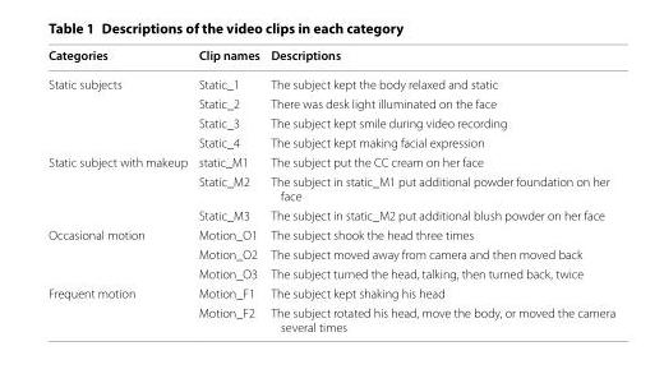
<table><thead><tr><td>Categories</td><td>Clip names</td><td>Descriptions</td></tr></thead><tbody><tr><td rowspan="4">Static subjects</td><td>Static_1</td><td>The subject kept the body relaxed and static</td></tr><tr><td>Static_2</td><td>There was desk light illuminated on the face</td></tr><tr><td>Static_3</td><td>The subject kept smile during video recording</td></tr><tr><td>Static_4</td><td>The subject kept making facial expression</td></tr><tr><td rowspan="3">Static subject with makeup</td><td>static_M1</td><td>The subject put the CC cream on her face</td></tr><tr><td>Static_M2</td><td>The subject in static_M1 put additional powder foundation on her face</td></tr><tr><td>Static_M3</td><td>The subject in static_M2 put additional blush powder on her face</td></tr><tr><td rowspan="3">Occasional motion</td><td>Motion_O1</td><td>The subject shook the head three times</td></tr><tr><td>Motion_O2</td><td>The subject moved away from camera and then moved back</td></tr><tr><td>Motion_O3</td><td>The subject turned the head, talking, then turned back, twice</td></tr><tr><td rowspan="2">Frequent motion</td><td>Motion_F1</td><td>The subject kept shaking his head</td></tr><tr><td>Motion_F2</td><td>The subject rotated his head, move the body, or moved the camera several times</td></tr></tbody></table>